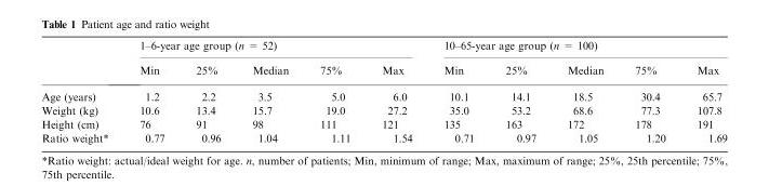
<table><thead><tr><td rowspan="2"></td><td colspan="5">1–6-year age group (n = 52)</td><td colspan="5">10–65-year age group (n = 100)</td></tr><tr><td>Min</td><td>25%</td><td>Median</td><td>75%</td><td>Max</td><td>Min</td><td>25%</td><td>Median</td><td>75%</td><td>Max</td></tr></thead><tbody><tr><td>Age (years)</td><td>1.2</td><td>2.2</td><td>3.5</td><td>5.0</td><td>6.0</td><td>10.1</td><td>14.1</td><td>18.5</td><td>30.4</td><td>65.7</td></tr><tr><td>Weight (kg)</td><td>10.6</td><td>13.4</td><td>15.7</td><td>19.0</td><td>27.2</td><td>35.0</td><td>53.2</td><td>68.6</td><td>77.3</td><td>107.8</td></tr><tr><td>Height (cm)</td><td>76</td><td>91</td><td>98</td><td>111</td><td>121</td><td>135</td><td>163</td><td>172</td><td>178</td><td>191</td></tr><tr><td>Ratio weight*</td><td>0.77</td><td>0.96</td><td>1.04</td><td>1.11</td><td>1.54</td><td>0.71</td><td>0.97</td><td>1.05</td><td>1.20</td><td>1.69</td></tr></tbody></table>